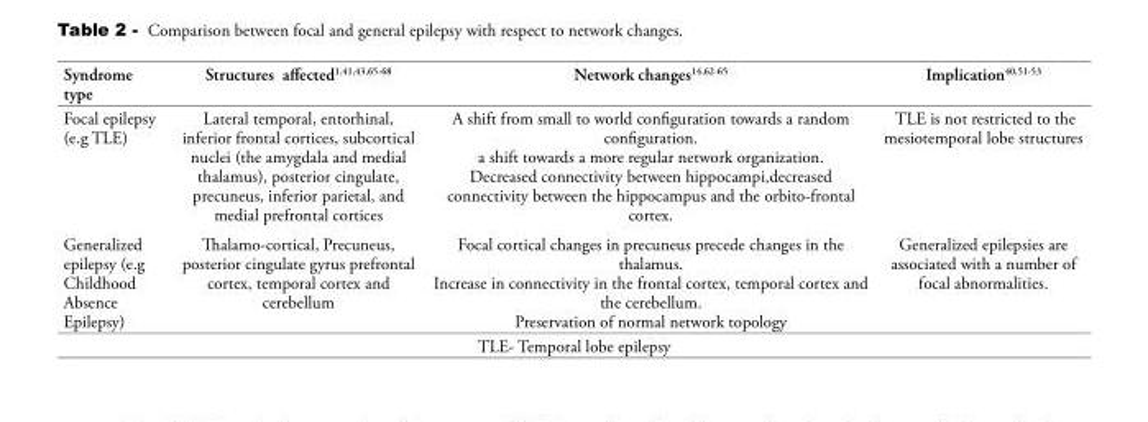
<table><thead><tr><td>Syndrome type</td><td>Structures affected<sup>1</sup>,<sup>41</sup>,<sup>43</sup>,<sup>65</sup>-<sup>68</sup></td><td>Network changes<sup>14</sup>,<sup>62</sup>-<sup>65</sup></td><td>Implication<sup>40</sup>,<sup>51</sup>-<sup>53</sup></td></tr></thead><tbody><tr><td>Focal epilepsy (e.g TLE)</td><td>Lateral temporal, entorhinal, inferior frontal cortices, subcortical nuclei (the amygdala and medial thalamus), posterior cingulate, precuneus, inferior parietal, and medial prefrontal cortices</td><td>A shift from small to world configuration towards a random configuration. a shift towards a more regular network organization. Decreased connectivity between hippocampi,decreased connectivity between the hippocampus and the orbito-frontal cortex.</td><td>TLE is not restricted to the mesiotemporal lobe structures</td></tr><tr><td>Generalized epilepsy (e.g Childhood Absence Epilepsy)</td><td>Thalamo-cortical, Precuneus, posterior cingulate gyrus prefrontal cortex, temporal cortex and cerebellum</td><td>Focal cortical changes in precuneus precede changes in the thalamus. Increase in connectivity in the frontal cortex, temporal cortex and the cerebellum. Preservation of normal network topology</td><td>Generalized epilepsies are associated with a number of focal abnormalities.</td></tr><tr><td colspan="4">TLE- Temporal lobe epilepsy</td></tr></tbody></table>